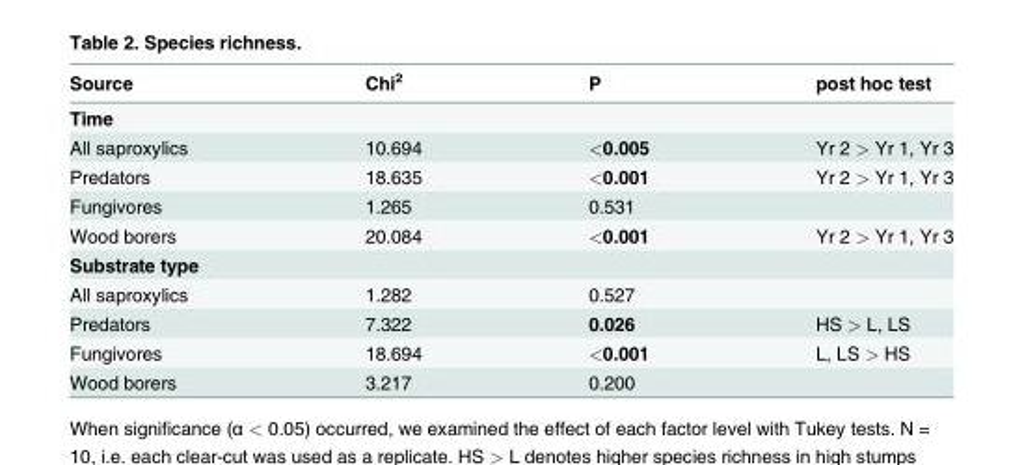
<table><thead><tr><td>Source</td><td>Chi<sup>2</sup></td><td>P</td><td>post hoc test</td></tr></thead><tbody><tr><td colspan="4">Time</td></tr><tr><td>All saproxylics</td><td>10.694</td><td>&lt;0.005</td><td>Yr 2 &gt; Yr 1, Yr 3</td></tr><tr><td>Predators</td><td>18.635</td><td>&lt;0.001</td><td>Yr 2 &gt; Yr 1, Yr 3</td></tr><tr><td>Fungivores</td><td>1.265</td><td>0.531</td><td></td></tr><tr><td>Wood borers</td><td>20.084</td><td>&lt;0.001</td><td>Yr 2 &gt; Yr 1, Yr 3</td></tr><tr><td colspan="4">Substrate type</td></tr><tr><td>All saproxylics</td><td>1.282</td><td>0.527</td><td></td></tr><tr><td>Predators</td><td>7.322</td><td>0.026</td><td>HS &gt; L, LS</td></tr><tr><td>Fungivores</td><td>18.694</td><td>&lt;0.001</td><td>L, LS &gt; HS</td></tr><tr><td>Wood borers</td><td>3.217</td><td>0.200</td><td></td></tr></tbody></table>